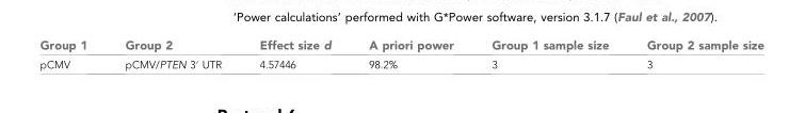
<table><thead><tr><td>Group 1</td><td>Group 2</td><td>Effect size d</td><td>A priori power</td><td>Group 1 sample size</td><td>Group 2 sample size</td></tr></thead><tbody><tr><td>pCMV</td><td>pCMV/PTEN 3′ UTR</td><td>4.57446</td><td>98.2%</td><td>3</td><td>3</td></tr></tbody></table>